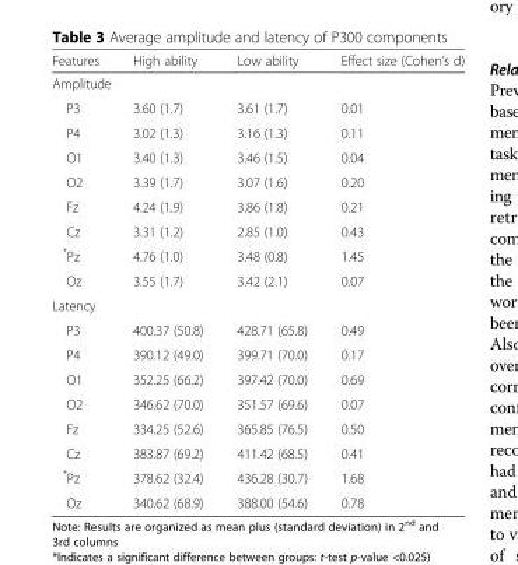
<table><thead><tr><td>Features</td><td>High ability</td><td>Low ability</td><td>Effect size (Cohen’s d)</td></tr></thead><tbody><tr><td colspan="4">Amplitude</td></tr><tr><td>P3</td><td>3.60 (1.7)</td><td>3.61 (1.7)</td><td>0.01</td></tr><tr><td>P4</td><td>3.02 (1.3)</td><td>3.16 (1.3)</td><td>0.11</td></tr><tr><td>O1</td><td>3.40 (1.3)</td><td>3.46 (1.5)</td><td>0.04</td></tr><tr><td>O2</td><td>3.39 (1.7)</td><td>3.07 (1.6)</td><td>0.20</td></tr><tr><td>Fz</td><td>4.24 (1.9)</td><td>3.86 (1.8)</td><td>0.21</td></tr><tr><td>Cz</td><td>3.31 (1.2)</td><td>2.85 (1.0)</td><td>0.43</td></tr><tr><td>*Pz</td><td>4.76 (1.0)</td><td>3.48 (0.8)</td><td>1.45</td></tr><tr><td>Oz</td><td>3.55 (1.7)</td><td>3.42 (2.1)</td><td>0.07</td></tr><tr><td colspan="4">Latency</td></tr><tr><td>P3</td><td>400.37 (50.8)</td><td>428.71 (65.8)</td><td>0.49</td></tr><tr><td>P4</td><td>390.12 (49.0)</td><td>399.71 (70.0)</td><td>0.17</td></tr><tr><td>O1</td><td>352.25 (66.2)</td><td>397.42 (70.0)</td><td>0.69</td></tr><tr><td>O2</td><td>346.62 (70.0)</td><td>351.57 (69.6)</td><td>0.07</td></tr><tr><td>Fz</td><td>334.25 (52.6)</td><td>365.85 (76.5)</td><td>0.50</td></tr><tr><td>Cz</td><td>383.87 (69.2)</td><td>411.42 (68.5)</td><td>0.41</td></tr><tr><td>*Pz</td><td>378.62 (32.4)</td><td>436.28 (30.7)</td><td>1.68</td></tr><tr><td>Oz</td><td>340.62 (68.9)</td><td>388.00 (54.6)</td><td>0.78</td></tr></tbody></table>